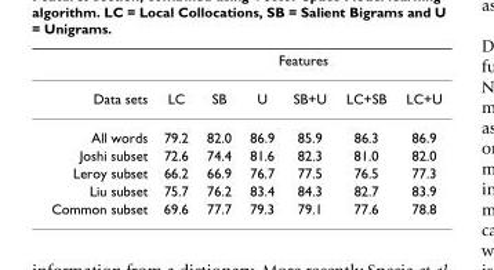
<table><thead><tr><td rowspan="2">Data sets</td><td colspan="6">Features</td></tr><tr><td>LC</td><td>SB</td><td>U</td><td>SB+U</td><td>LC+SB</td><td>LC+U</td></tr></thead><tbody><tr><td>All words</td><td>79.2</td><td>82.0</td><td>86.9</td><td>85.9</td><td>86.3</td><td>86.9</td></tr><tr><td>Joshi subset</td><td>72.6</td><td>74.4</td><td>81.6</td><td>82.3</td><td>81.0</td><td>82.0</td></tr><tr><td>Leroy subset</td><td>66.2</td><td>66.9</td><td>76.7</td><td>77.5</td><td>76.5</td><td>77.3</td></tr><tr><td>Liu subset</td><td>75.7</td><td>76.2</td><td>83.4</td><td>84.3</td><td>82.7</td><td>83.9</td></tr><tr><td>Common subset</td><td>69.6</td><td>77.7</td><td>79.3</td><td>79.1</td><td>77.6</td><td>78.8</td></tr></tbody></table>